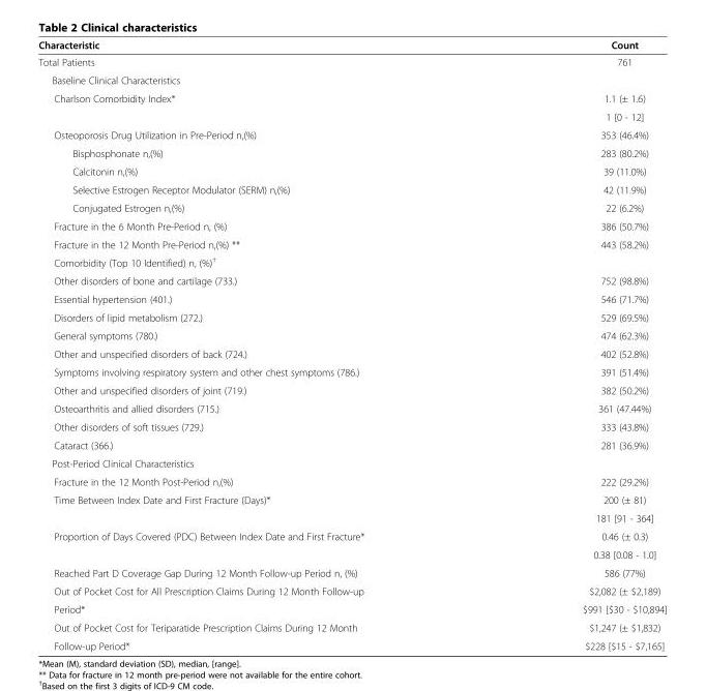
<table><thead><tr><td>Characteristic</td><td>Count</td></tr></thead><tbody><tr><td>Total Patients</td><td>761</td></tr><tr><td colspan="2">Baseline Clinical Characteristics</td></tr><tr><td rowspan="2">Charlson Comorbidity Index*</td><td>1.1 (± 1.6)</td></tr><tr><td>1 [0 - 12]</td></tr><tr><td>Osteoporosis Drug Utilization in Pre-Period n,(%)</td><td>353 (46.4%)</td></tr><tr><td>Bisphosphonate n,(%)</td><td>283 (80.2%)</td></tr><tr><td>Calcitonin n,(%)</td><td>39 (11.0%)</td></tr><tr><td>Selective Estrogen Receptor Modulator (SERM) n,(%)</td><td>42 (11.9%)</td></tr><tr><td>Conjugated Estrogen n,(%)</td><td>22 (6.2%)</td></tr><tr><td>Fracture in the 6 Month Pre-Period n, (%)</td><td>386 (50.7%)</td></tr><tr><td>Fracture in the 12 Month Pre-Period n,(%) **</td><td>443 (58.2%)</td></tr><tr><td colspan="2">Comorbidity (Top 10 Identified) n, (%)<sup>†</sup></td></tr><tr><td>Other disorders of bone and cartilage (733.)</td><td>752 (98.8%)</td></tr><tr><td>Essential hypertension (401.)</td><td>546 (71.7%)</td></tr><tr><td>Disorders of lipid metabolism (272.)</td><td>529 (69.5%)</td></tr><tr><td>General symptoms (780.)</td><td>474 (62.3%)</td></tr><tr><td>Other and unspecified disorders of back (724.)</td><td>402 (52.8%)</td></tr><tr><td>Symptoms involving respiratory system and other chest symptoms (786.)</td><td>391 (51.4%)</td></tr><tr><td>Other and unspecified disorders of joint (719.)</td><td>382 (50.2%)</td></tr><tr><td>Osteoarthritis and allied disorders (715.)</td><td>361 (47.44%)</td></tr><tr><td>Other disorders of soft tissues (729.)</td><td>333 (43.8%)</td></tr><tr><td>Cataract (366.)</td><td>281 (36.9%)</td></tr><tr><td colspan="2">Post-Period Clinical Characteristics</td></tr><tr><td>Fracture in the 12 Month Post-Period n,(%)</td><td>222 (29.2%)</td></tr><tr><td rowspan="2">Time Between Index Date and First Fracture (Days)*</td><td>200 (± 81)</td></tr><tr><td>181 [91 - 364]</td></tr><tr><td rowspan="2">Proportion of Days Covered (PDC) Between Index Date and First Fracture*</td><td>0.46 (± 0.3)</td></tr><tr><td>0.38 [0.08 - 1.0]</td></tr><tr><td>Reached Part D Coverage Gap During 12 Month Follow-up Period n, (%)</td><td>586 (77%)</td></tr><tr><td>Out of Pocket Cost for All Prescription Claims During 12 Month Follow-up</td><td>$2,082 (± $2,189)</td></tr><tr><td>Period*</td><td>$991 [$30 - $10,894]</td></tr><tr><td>Out of Pocket Cost for Teriparatide Prescription Claims During 12 Month</td><td>$1,247 (± $1,832)</td></tr><tr><td>Follow-up Period*</td><td>$228 [$15 - $7,165]</td></tr></tbody></table>